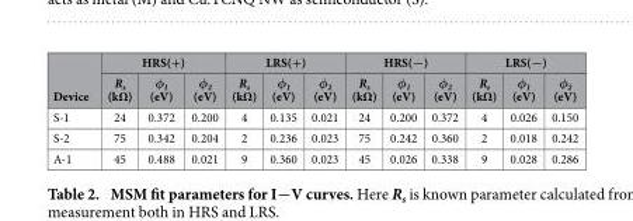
<table><thead><tr><td rowspan="2">Device</td><td colspan="3">HRS(+)</td><td colspan="3">LRS(+)</td><td colspan="3">HRS(−)</td><td colspan="3">LRS(−)</td></tr><tr><td>R<sub>s</sub> (kΩ)</td><td>φ<sub>1</sub> (eV)</td><td>φ<sub>2</sub> (eV)</td><td>R<sub>s</sub> (kΩ)</td><td>φ<sub>1</sub> (eV)</td><td>φ<sub>2</sub> (eV)</td><td>R<sub>s</sub> (kΩ)</td><td>φ<sub>1</sub> (eV)</td><td>φ<sub>2</sub> (eV)</td><td>R<sub>s</sub> (kΩ)</td><td>φ<sub>1</sub> (eV)</td><td>φ<sub>2</sub> (eV)</td></tr></thead><tbody><tr><td>S-1</td><td>24</td><td>0.372</td><td>0.200</td><td>4</td><td>0.135</td><td>0.021</td><td>24</td><td>0.200</td><td>0.372</td><td>4</td><td>0.026</td><td>0.150</td></tr><tr><td>S-2</td><td>75</td><td>0.342</td><td>0.204</td><td>2</td><td>0.236</td><td>0.023</td><td>75</td><td>0.242</td><td>0.360</td><td>2</td><td>0.018</td><td>0.242</td></tr><tr><td>A-1</td><td>45</td><td>0.488</td><td>0.021</td><td>9</td><td>0.360</td><td>0.023</td><td>45</td><td>0.026</td><td>0.338</td><td>9</td><td>0.028</td><td>0.286</td></tr></tbody></table>